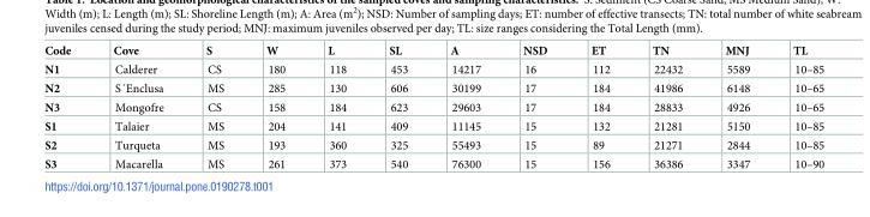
<table><thead><tr><td>Code</td><td>Cove</td><td>S</td><td>W</td><td>L</td><td>SL</td><td>A</td><td>NSD</td><td>ET</td><td>TN</td><td>MNJ</td><td>TL</td></tr></thead><tbody><tr><td>N1</td><td>Calderer</td><td>CS</td><td>180</td><td>118</td><td>453</td><td>14217</td><td>16</td><td>112</td><td>22432</td><td>5589</td><td>10–85</td></tr><tr><td>N2</td><td>S´Enclusa</td><td>MS</td><td>285</td><td>130</td><td>606</td><td>30199</td><td>17</td><td>184</td><td>41986</td><td>6148</td><td>10–65</td></tr><tr><td>N3</td><td>Mongofre</td><td>CS</td><td>158</td><td>184</td><td>623</td><td>29603</td><td>17</td><td>184</td><td>28833</td><td>4926</td><td>10–65</td></tr><tr><td>S1</td><td>Talaier</td><td>MS</td><td>204</td><td>141</td><td>409</td><td>11145</td><td>15</td><td>132</td><td>21281</td><td>5150</td><td>10–85</td></tr><tr><td>S2</td><td>Turqueta</td><td>MS</td><td>193</td><td>360</td><td>325</td><td>55493</td><td>15</td><td>89</td><td>21271</td><td>2844</td><td>10–85</td></tr><tr><td>S3</td><td>Macarella</td><td>MS</td><td>261</td><td>373</td><td>540</td><td>76300</td><td>15</td><td>156</td><td>36386</td><td>3347</td><td>10–90</td></tr></tbody></table>